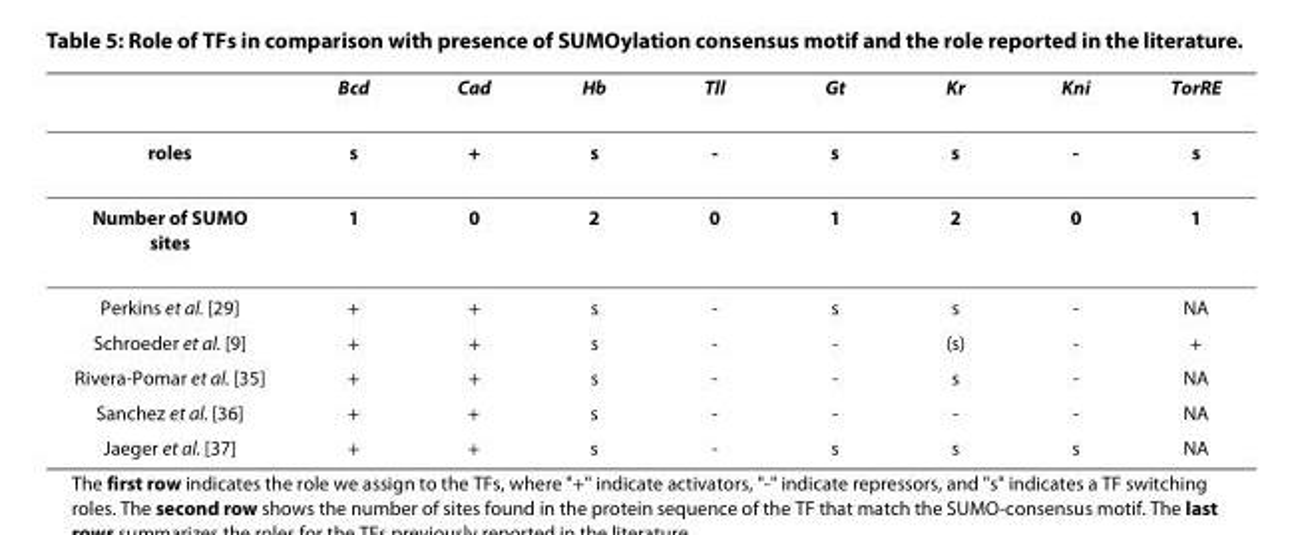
<table><thead><tr><td></td><td>Bcd</td><td>Cad</td><td>Hb</td><td>Tll</td><td>Gt</td><td>Kr</td><td>Kni</td><td>TorRE</td></tr></thead><tbody><tr><td>roles</td><td>s</td><td>+</td><td>s</td><td>-</td><td>s</td><td>s</td><td>-</td><td>s</td></tr><tr><td>Number of SUMO sites</td><td>1</td><td>0</td><td>2</td><td>0</td><td>1</td><td>2</td><td>0</td><td>1</td></tr><tr><td>Perkins et al. [29]</td><td>+</td><td>+</td><td>s</td><td>-</td><td>s</td><td>s</td><td>-</td><td>NA</td></tr><tr><td>Schroeder et al. [9]</td><td>+</td><td>+</td><td>s</td><td>-</td><td>-</td><td>(s)</td><td>-</td><td>+</td></tr><tr><td>Rivera-Pomar et al. [35]</td><td>+</td><td>+</td><td>s</td><td>-</td><td>-</td><td>s</td><td>-</td><td>NA</td></tr><tr><td>Sanchez et al. [36]</td><td>+</td><td>+</td><td>s</td><td>-</td><td>-</td><td>-</td><td>-</td><td>NA</td></tr><tr><td>Jaeger et al. [37]</td><td>+</td><td>+</td><td>s</td><td>-</td><td>s</td><td>s</td><td>s</td><td>NA</td></tr></tbody></table>